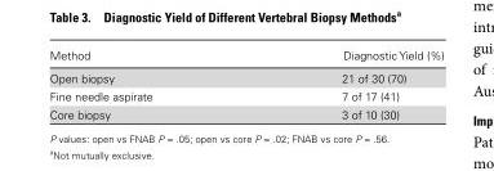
<table><thead><tr><td>Method</td><td>Diagnostic Yield (%)</td></tr></thead><tbody><tr><td>Open biopsy</td><td>21 of 30 (70)</td></tr><tr><td>Fine needle aspirate</td><td>7 of 17 (41)</td></tr><tr><td>Core biopsy</td><td>3 of 10 (30)</td></tr></tbody></table>